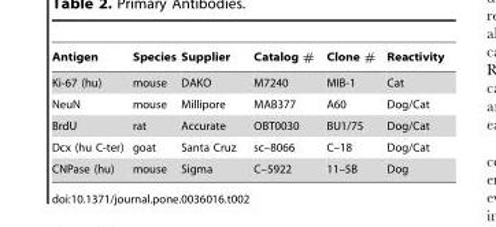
<table><thead><tr><td>Antigen</td><td>Species</td><td>Supplier</td><td>Catalog #</td><td>Clone #</td><td>Reactivity</td></tr></thead><tbody><tr><td>Ki-67 (hu)</td><td>mouse</td><td>DAKO</td><td>M7240</td><td>MIB-1</td><td>Cat</td></tr><tr><td>NeuN</td><td>mouse</td><td>Millipore</td><td>MAB377</td><td>A60</td><td>Dog/Cat</td></tr><tr><td>BrdU</td><td>rat</td><td>Accurate</td><td>OBT0030</td><td>BU1/75</td><td>Dog/Cat</td></tr><tr><td>Dcx (hu C-ter)</td><td>goat</td><td>Santa Cruz</td><td>sc–8066</td><td>C–18</td><td>Dog/Cat</td></tr><tr><td>CNPase (hu)</td><td>mouse</td><td>Sigma</td><td>C–5922</td><td>11–5B</td><td>Dog</td></tr></tbody></table>